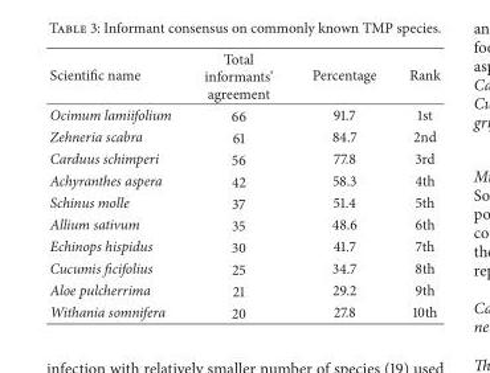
<table><thead><tr><td>Scientific name</td><td>Total informants’ agreement</td><td>Percentage</td><td>Rank</td></tr></thead><tbody><tr><td>Ocimum lamiifolium</td><td>66</td><td>91.7</td><td>1st</td></tr><tr><td>Zehneria scabra</td><td>61</td><td>84.7</td><td>2nd</td></tr><tr><td>Carduus schimperi</td><td>56</td><td>77.8</td><td>3rd</td></tr><tr><td>Achyranthes aspera</td><td>42</td><td>58.3</td><td>4th</td></tr><tr><td>Schinus molle</td><td>37</td><td>51.4</td><td>5th</td></tr><tr><td>Allium sativum</td><td>35</td><td>48.6</td><td>6th</td></tr><tr><td>Echinops hispidus</td><td>30</td><td>41.7</td><td>7th</td></tr><tr><td>Cucumis ficifolius</td><td>25</td><td>34.7</td><td>8th</td></tr><tr><td>Aloe pulcherrima</td><td>21</td><td>29.2</td><td>9th</td></tr><tr><td>Withania somnifera</td><td>20</td><td>27.8</td><td>10th</td></tr></tbody></table>